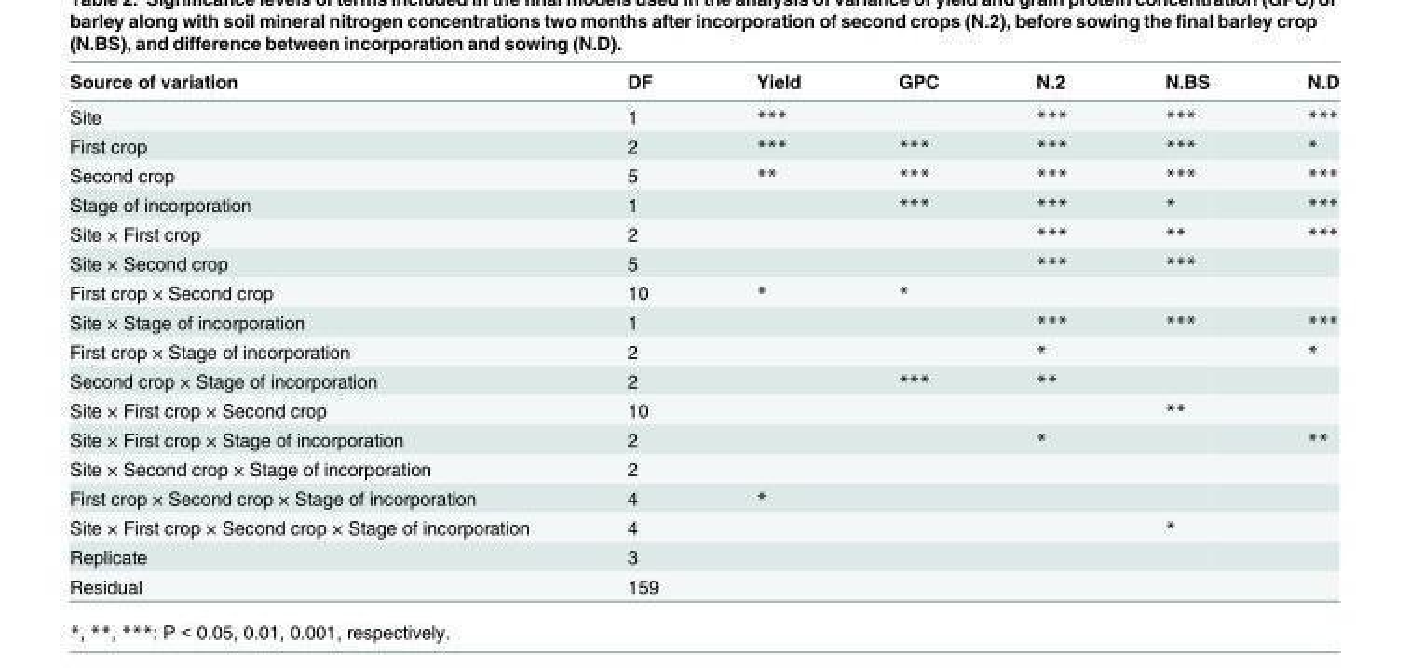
<table><thead><tr><td>Source of variation</td><td>DF</td><td>Yield</td><td>GPC</td><td>N.2</td><td>N.BS</td><td>N.D</td></tr></thead><tbody><tr><td>Site</td><td>1</td><td>***</td><td></td><td>***</td><td>***</td><td>***</td></tr><tr><td>First crop</td><td>2</td><td>***</td><td>***</td><td>***</td><td>***</td><td>*</td></tr><tr><td>Second crop</td><td>5</td><td>**</td><td>***</td><td>***</td><td>***</td><td>***</td></tr><tr><td>Stage of incorporation</td><td>1</td><td></td><td>***</td><td>***</td><td>*</td><td>***</td></tr><tr><td>Site × First crop</td><td>2</td><td></td><td></td><td>***</td><td>**</td><td>***</td></tr><tr><td>Site × Second crop</td><td>5</td><td></td><td></td><td>***</td><td>***</td><td></td></tr><tr><td>First crop × Second crop</td><td>10</td><td>*</td><td>*</td><td></td><td></td><td></td></tr><tr><td>Site × Stage of incorporation</td><td>1</td><td></td><td></td><td>***</td><td>***</td><td>***</td></tr><tr><td>First crop × Stage of incorporation</td><td>2</td><td></td><td></td><td>*</td><td></td><td>*</td></tr><tr><td>Second crop × Stage of incorporation</td><td>2</td><td></td><td>***</td><td>**</td><td></td><td></td></tr><tr><td>Site × First crop × Second crop</td><td>10</td><td></td><td></td><td></td><td>**</td><td></td></tr><tr><td>Site × First crop × Stage of incorporation</td><td>2</td><td></td><td></td><td>*</td><td></td><td>**</td></tr><tr><td>Site × Second crop × Stage of incorporation</td><td>2</td><td></td><td></td><td></td><td></td><td></td></tr><tr><td>First crop × Second crop × Stage of incorporation</td><td>4</td><td>*</td><td></td><td></td><td></td><td></td></tr><tr><td>Site × First crop × Second crop × Stage of incorporation</td><td>4</td><td></td><td></td><td></td><td>*</td><td></td></tr><tr><td>Replicate</td><td>3</td><td></td><td></td><td></td><td></td><td></td></tr><tr><td>Residual</td><td>159</td><td></td><td></td><td></td><td></td><td></td></tr></tbody></table>